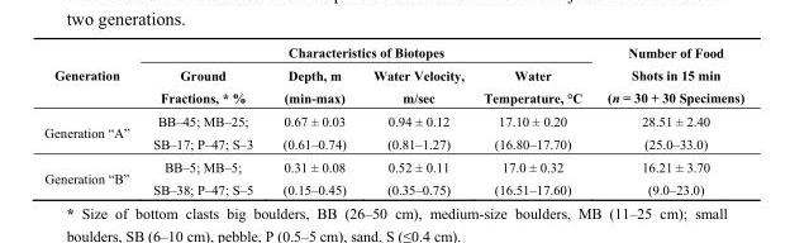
<table><thead><tr><td rowspan="2">Generation</td><td colspan="4">Characteristics of Biotopes</td><td rowspan="2">Number of Food Shots in 15 min (n = 30 + 30 Specimens)</td></tr><tr><td>Ground Fractions, * %</td><td>Depth, m (min-max)</td><td>Water Velocity, m/sec</td><td>Water Temperature, °С</td></tr></thead><tbody><tr><td>Generation “А”</td><td>BB–45; MB–25; SB–17; P–47; S–3</td><td>0.67 ± 0.03 (0.61–0.74)</td><td>0.94 ± 0.12 (0.81–1.27)</td><td>17.10 ± 0.20 (16.80–17.70)</td><td>28.51 ± 2.40 (25.0–33.0)</td></tr><tr><td>Generation “B”</td><td>BB–5; MB–5; SB–38; P–47; S–5</td><td>0.31 ± 0.08 (0.15–0.45)</td><td>0.52 ± 0.11 (0.35–0.75)</td><td>17.0 ± 0.32 (16.51–17.60)</td><td>16.21 ± 3.70 (9.0–23.0)</td></tr></tbody></table>